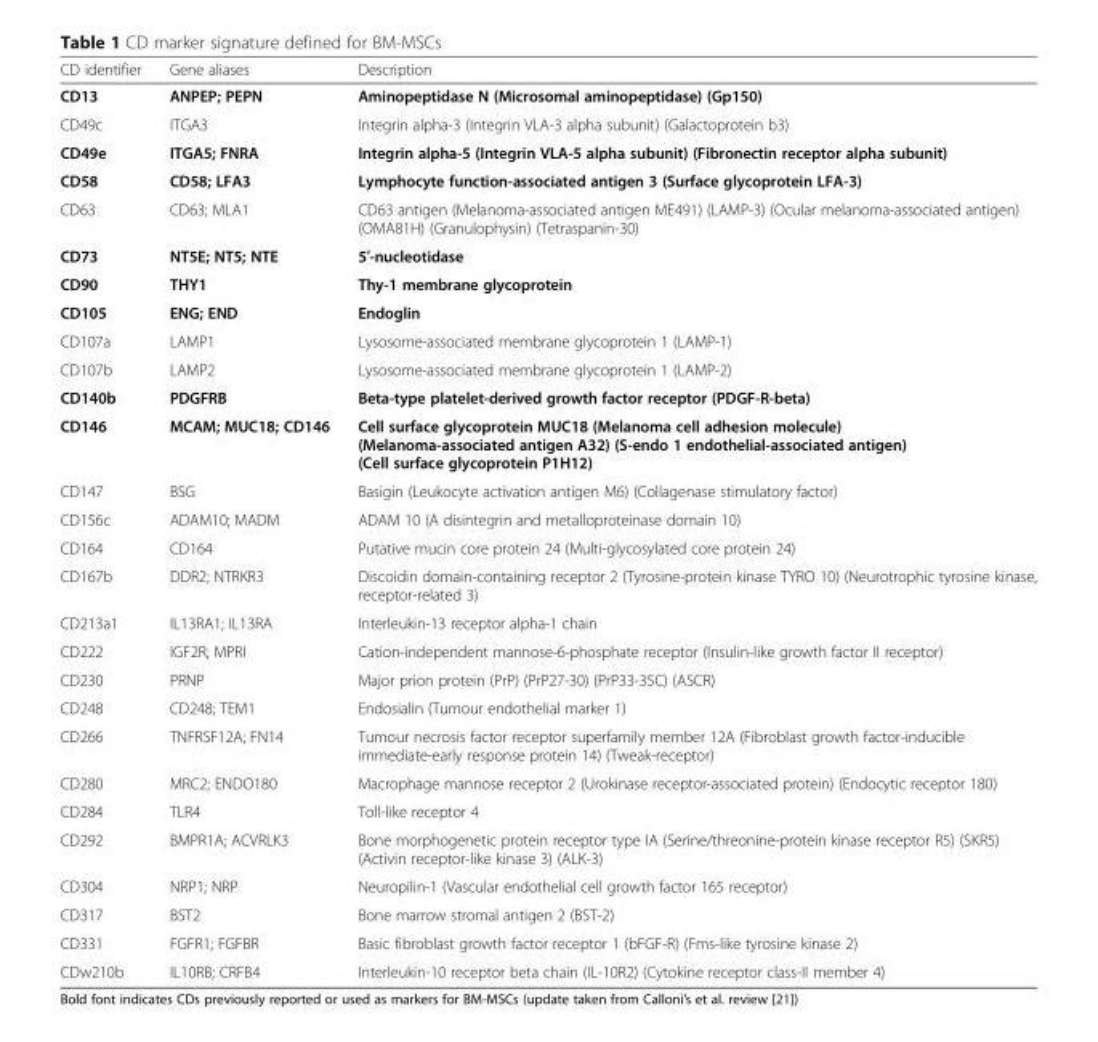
<table><thead><tr><td>CD identifier</td><td>Gene aliases</td><td>Description</td></tr></thead><tbody><tr><td>CD13</td><td>ANPEP; PEPN</td><td>Aminopeptidase N (Microsomal aminopeptidase) (Gp150)</td></tr><tr><td>CD49c</td><td>ITGA3</td><td>Integrin alpha-3 (Integrin VLA-3 alpha subunit) (Galactoprotein b3)</td></tr><tr><td>CD49e</td><td>ITGA5; FNRA</td><td>Integrin alpha-5 (Integrin VLA-5 alpha subunit) (Fibronectin receptor alpha subunit)</td></tr><tr><td>CD58</td><td>CD58; LFA3</td><td>Lymphocyte function-associated antigen 3 (Surface glycoprotein LFA-3)</td></tr><tr><td>CD63</td><td>CD63; MLA1</td><td>CD63 antigen (Melanoma-associated antigen ME491) (LAMP-3) (Ocular melanoma-associated antigen) (OMA81H) (Granulophysin) (Tetraspanin-30)</td></tr><tr><td>CD73</td><td>NT5E; NT5; NTE</td><td>5′-nucleotidase</td></tr><tr><td>CD90</td><td>THY1</td><td>Thy-1 membrane glycoprotein</td></tr><tr><td>CD105</td><td>ENG; END</td><td>Endoglin</td></tr><tr><td>CD107a</td><td>LAMP1</td><td>Lysosome-associated membrane glycoprotein 1 (LAMP-1)</td></tr><tr><td>CD107b</td><td>LAMP2</td><td>Lysosome-associated membrane glycoprotein 1 (LAMP-2)</td></tr><tr><td>CD140b</td><td>PDGFRB</td><td>Beta-type platelet-derived growth factor receptor (PDGF-R-beta)</td></tr><tr><td>CD146</td><td>MCAM; MUC18; CD146</td><td>Cell surface glycoprotein MUC18 (Melanoma cell adhesion molecule) (Melanoma-associated antigen A32) (S-endo 1 endothelial-associated antigen) (Cell surface glycoprotein P1H12)</td></tr><tr><td>CD147</td><td>BSG</td><td>Basigin (Leukocyte activation antigen M6) (Collagenase stimulatory factor)</td></tr><tr><td>CD156c</td><td>ADAM10; MADM</td><td>ADAM 10 (A disintegrin and metalloproteinase domain 10)</td></tr><tr><td>CD164</td><td>CD164</td><td>Putative mucin core protein 24 (Multi-glycosylated core protein 24)</td></tr><tr><td>CD167b</td><td>DDR2; NTRKR3</td><td>Discoidin domain-containing receptor 2 (Tyrosine-protein kinase TYRO 10) (Neurotrophic tyrosine kinase, receptor-related 3)</td></tr><tr><td>CD213a1</td><td>IL13RA1; IL13RA</td><td>Interleukin-13 receptor alpha-1 chain</td></tr><tr><td>CD222</td><td>IGF2R; MPRI</td><td>Cation-independent mannose-6-phosphate receptor (Insulin-like growth factor II receptor)</td></tr><tr><td>CD230</td><td>PRNP</td><td>Major prion protein (PrP) (PrP27-30) (PrP33-35C) (ASCR)</td></tr><tr><td>CD248</td><td>CD248; TEM1</td><td>Endosialin (Tumour endothelial marker 1)</td></tr><tr><td>CD266</td><td>TNFRSF12A; FN14</td><td>Tumour necrosis factor receptor superfamily member 12A (Fibroblast growth factor-inducible immediate-early response protein 14) (Tweak-receptor)</td></tr><tr><td>CD280</td><td>MRC2; ENDO180</td><td>Macrophage mannose receptor 2 (Urokinase receptor-associated protein) (Endocytic receptor 180)</td></tr><tr><td>CD284</td><td>TLR4</td><td>Toll-like receptor 4</td></tr><tr><td>CD292</td><td>BMPR1A; ACVRLK3</td><td>Bone morphogenetic protein receptor type IA (Serine/threonine-protein kinase receptor R5) (SKR5) (Activin receptor-like kinase 3) (ALK-3)</td></tr><tr><td>CD304</td><td>NRP1; NRP</td><td>Neuropilin-1 (Vascular endothelial cell growth factor 165 receptor)</td></tr><tr><td>CD317</td><td>BST2</td><td>Bone marrow stromal antigen 2 (BST-2)</td></tr><tr><td>CD331</td><td>FGFR1; FGFBR</td><td>Basic fibroblast growth factor receptor 1 (bFGF-R) (Fms-like tyrosine kinase 2)</td></tr><tr><td>CDw210b</td><td>IL10RB; CRFB4</td><td>Interleukin-10 receptor beta chain (IL-10R2) (Cytokine receptor class-II member 4)</td></tr></tbody></table>